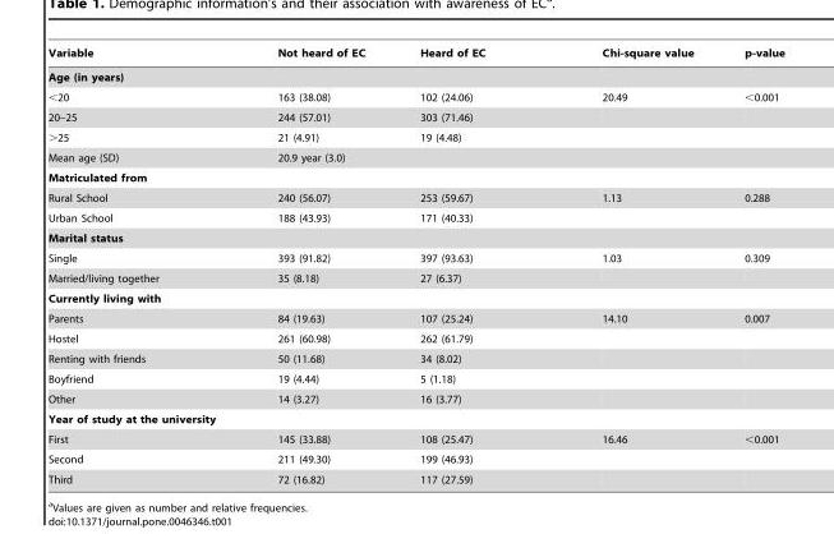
<table><thead><tr><td>Variable</td><td>Not heard of EC</td><td>Heard of EC</td><td>Chi-square value</td><td>p-value</td></tr></thead><tbody><tr><td colspan="5">Age (in years)</td></tr><tr><td>&lt;20</td><td>163 (38.08)</td><td>102 (24.06)</td><td>20.49</td><td>&lt;0.001</td></tr><tr><td>20–25</td><td>244 (57.01)</td><td>303 (71.46)</td><td></td><td></td></tr><tr><td>&gt;25</td><td>21 (4.91)</td><td>19 (4.48)</td><td></td><td></td></tr><tr><td>Mean age (SD)</td><td colspan="4">20.9 year (3.0)</td></tr><tr><td colspan="5">Matriculated from</td></tr><tr><td>Rural School</td><td>240 (56.07)</td><td>253 (59.67)</td><td>1.13</td><td>0.288</td></tr><tr><td>Urban School</td><td>188 (43.93)</td><td>171 (40.33)</td><td></td><td></td></tr><tr><td colspan="5">Marital status</td></tr><tr><td>Single</td><td>393 (91.82)</td><td>397 (93.63)</td><td>1.03</td><td>0.309</td></tr><tr><td>Married/living together</td><td>35 (8.18)</td><td>27 (6.37)</td><td></td><td></td></tr><tr><td colspan="5">Currently living with</td></tr><tr><td>Parents</td><td>84 (19.63)</td><td>107 (25.24)</td><td>14.10</td><td>0.007</td></tr><tr><td>Hostel</td><td>261 (60.98)</td><td>262 (61.79)</td><td></td><td></td></tr><tr><td>Renting with friends</td><td>50 (11.68)</td><td>34 (8.02)</td><td></td><td></td></tr><tr><td>Boyfriend</td><td>19 (4.44)</td><td>5 (1.18)</td><td></td><td></td></tr><tr><td>Other</td><td>14 (3.27)</td><td>16 (3.77)</td><td></td><td></td></tr><tr><td colspan="5">Year of study at the university</td></tr><tr><td>First</td><td>145 (33.88)</td><td>108 (25.47)</td><td>16.46</td><td>&lt;0.001</td></tr><tr><td>Second</td><td>211 (49.30)</td><td>199 (46.93)</td><td></td><td></td></tr><tr><td>Third</td><td>72 (16.82)</td><td>117 (27.59)</td><td></td><td></td></tr></tbody></table>